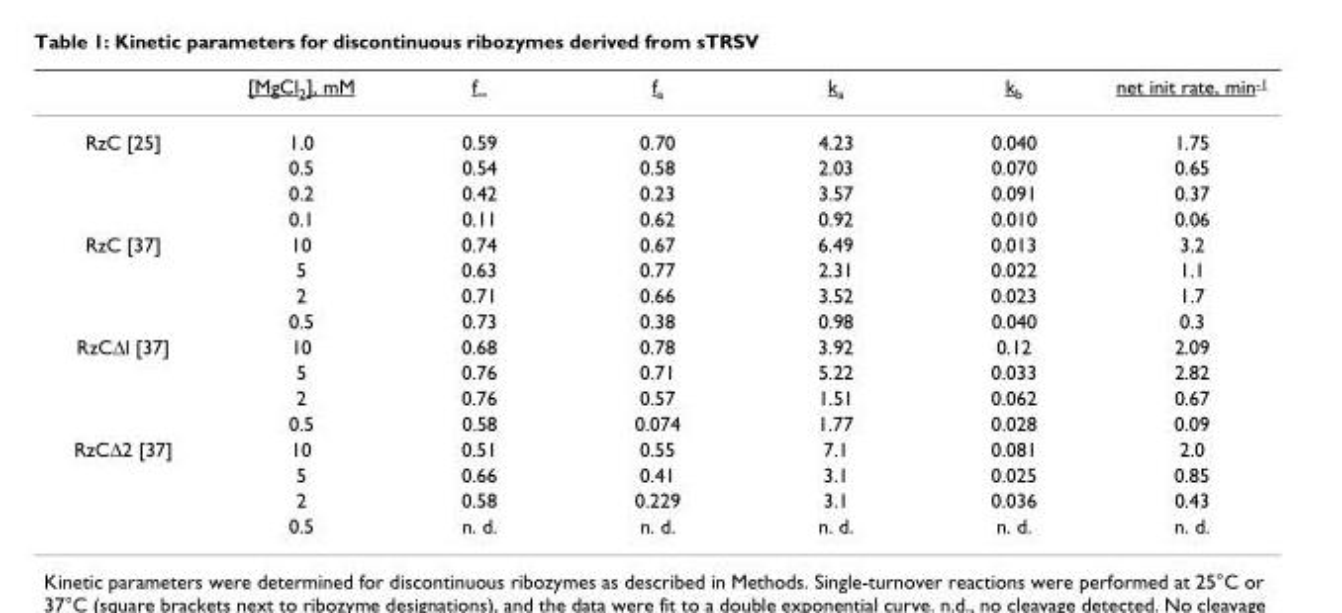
<table><thead><tr><td></td><td>[MgCl<sub>2</sub>], mM</td><td>f<sub>∞</sub></td><td>f<sub>a</sub></td><td>k<sub>a</sub></td><td>k<sub>b</sub></td><td>net init rate, min<sup>-1</sup></td></tr></thead><tbody><tr><td rowspan="4">RzC [25]</td><td>1.0</td><td>0.59</td><td>0.70</td><td>4.23</td><td>0.040</td><td>1.75</td></tr><tr><td>0.5</td><td>0.54</td><td>0.58</td><td>2.03</td><td>0.070</td><td>0.65</td></tr><tr><td>0.2</td><td>0.42</td><td>0.23</td><td>3.57</td><td>0.091</td><td>0.37</td></tr><tr><td>0.1</td><td>0.11</td><td>0.62</td><td>0.92</td><td>0.010</td><td>0.06</td></tr><tr><td rowspan="4">RzC [37]</td><td>10</td><td>0.74</td><td>0.67</td><td>6.49</td><td>0.013</td><td>3.2</td></tr><tr><td>5</td><td>0.63</td><td>0.77</td><td>2.31</td><td>0.022</td><td>1.1</td></tr><tr><td>2</td><td>0.71</td><td>0.66</td><td>3.52</td><td>0.023</td><td>1.7</td></tr><tr><td>0.5</td><td>0.73</td><td>0.38</td><td>0.98</td><td>0.040</td><td>0.3</td></tr><tr><td rowspan="4">RzC∆l [37]</td><td>10</td><td>0.68</td><td>0.78</td><td>3.92</td><td>0.12</td><td>2.09</td></tr><tr><td>5</td><td>0.76</td><td>0.71</td><td>5.22</td><td>0.033</td><td>2.82</td></tr><tr><td>2</td><td>0.76</td><td>0.57</td><td>1.51</td><td>0.062</td><td>0.67</td></tr><tr><td>0.5</td><td>0.58</td><td>0.074</td><td>1.77</td><td>0.028</td><td>0.09</td></tr><tr><td rowspan="4">RzC∆2 [37]</td><td>10</td><td>0.51</td><td>0.55</td><td>7.1</td><td>0.081</td><td>2.0</td></tr><tr><td>5</td><td>0.66</td><td>0.41</td><td>3.1</td><td>0.025</td><td>0.85</td></tr><tr><td>2</td><td>0.58</td><td>0.229</td><td>3.1</td><td>0.036</td><td>0.43</td></tr><tr><td>0.5</td><td>n. d.</td><td>n. d.</td><td>n. d.</td><td>n. d.</td><td>n. d.</td></tr></tbody></table>